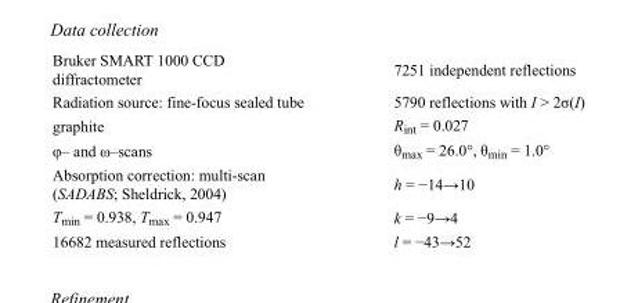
<table><tbody><tr><td>Bruker SMART 1000 CCD diffractometer</td><td>7251 independent reflections</td></tr><tr><td>Radiation source: fine-focus sealed tube</td><td>5790 reflections with I &gt; 2σ(I)</td></tr><tr><td>graphite</td><td>R<sub>int</sub> = 0.027</td></tr><tr><td>φ– and ω–scans</td><td>θ<sub>max</sub> = 26.0°, θ<sub>min</sub> = 1.0°</td></tr><tr><td>Absorption correction: multi-scan (SADABS; Sheldrick, 2004)</td><td>h = −14→10</td></tr><tr><td>T<sub>min</sub> = 0.938, T<sub>max</sub> = 0.947</td><td>k = −9→4</td></tr><tr><td>16682 measured reflections</td><td>l = −43→52</td></tr></tbody></table>